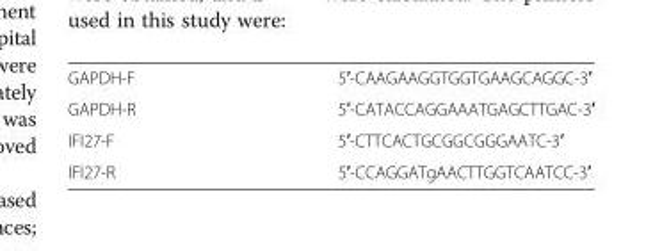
<table><tbody><tr><td>GAPDH-F</td><td>5′-CAAGAAGGTGGTGAAGCAGGC-3′</td></tr><tr><td>GAPDH-R</td><td>5′-CATACCAGGAAATGAGCTTGAC-3′</td></tr><tr><td>IFI27-F</td><td>5′-CTTCACTGCGGCGGGAATC-3′</td></tr><tr><td>IFI27-R</td><td>5′-CCAGGATgAACTTGGTCAATCC-3′</td></tr></tbody></table>